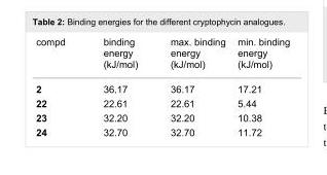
<table><tbody><tr><td>compd</td><td>binding energy (kJ/mol)</td><td>max. binding energy (kJ/mol)</td><td>min. binding energy (kJ/mol)</td></tr><tr><td>2</td><td>36.17</td><td>36.17</td><td>17.21</td></tr><tr><td>22</td><td>22.61</td><td>22.61</td><td>5.44</td></tr><tr><td>23</td><td>32.20</td><td>32.20</td><td>10.38</td></tr><tr><td>24</td><td>32.70</td><td>32.70</td><td>11.72</td></tr></tbody></table>